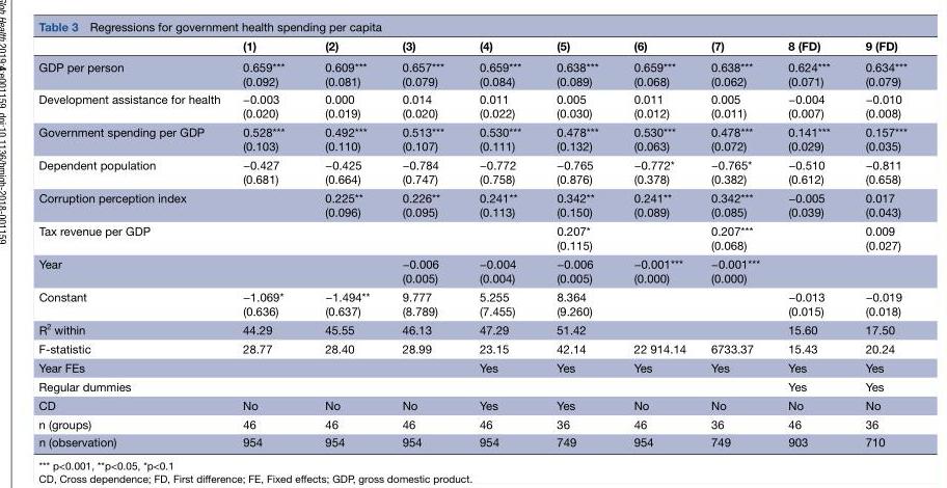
<table><thead><tr><td></td><td>(1)</td><td>(2)</td><td>(3)</td><td>(4)</td><td>(5)</td><td>(6)</td><td>(7)</td><td>8 (FD)</td><td>9 (FD)</td></tr></thead><tbody><tr><td>GDP per person</td><td>0.659*** (0.092)</td><td>0.609*** (0.081)</td><td>0.657*** (0.079)</td><td>0.659*** (0.084)</td><td>0.638*** (0.089)</td><td>0.659*** (0.068)</td><td>0.638*** (0.062)</td><td>0.624*** (0.071)</td><td>0.634*** (0.079)</td></tr><tr><td>Development assistance for health</td><td>−0.003 (0.020)</td><td>0.000 (0.019)</td><td>0.014 (0.020)</td><td>0.011 (0.022)</td><td>0.005 (0.030)</td><td>0.011 (0.012)</td><td>0.005 (0.011)</td><td>−0.004 (0.007)</td><td>−0.010 (0.008)</td></tr><tr><td>Government spending per GDP</td><td>0.528*** (0.103)</td><td>0.492*** (0.110)</td><td>0.513*** (0.107)</td><td>0.530*** (0.111)</td><td>0.478*** (0.132)</td><td>0.530*** (0.063)</td><td>0.478*** (0.072)</td><td>0.141*** (0.029)</td><td>0.157*** (0.035)</td></tr><tr><td>Dependent population</td><td>−0.427 (0.681)</td><td>−0.425 (0.664)</td><td>−0.784 (0.747)</td><td>−0.772 (0.758)</td><td>−0.765 (0.876)</td><td>−0.772* (0.378)</td><td>−0.765* (0.382)</td><td>−0.510 (0.612)</td><td>−0.811 (0.658)</td></tr><tr><td>Corruption perception index</td><td></td><td>0.225** (0.096)</td><td>0.226** (0.095)</td><td>0.241** (0.113)</td><td>0.342** (0.150)</td><td>0.241** (0.089)</td><td>0.342*** (0.085)</td><td>−0.005 (0.039)</td><td>0.017 (0.043)</td></tr><tr><td>Tax revenue per GDP</td><td></td><td></td><td></td><td></td><td>0.207* (0.115)</td><td></td><td>0.207*** (0.068)</td><td></td><td>0.009 (0.027)</td></tr><tr><td>Year</td><td></td><td></td><td>−0.006 (0.005)</td><td>−0.004 (0.004)</td><td>−0.006 (0.005)</td><td>−0.001*** (0.000)</td><td>−0.001*** (0.000)</td><td></td><td></td></tr><tr><td>Constant</td><td>−1.069* (0.636)</td><td>−1.494** (0.637)</td><td>9.777 (8.789)</td><td>5.255 (7.455)</td><td>8.364 (9.260)</td><td></td><td></td><td>−0.013 (0.015)</td><td>−0.019 (0.018)</td></tr><tr><td>R<sup>2</sup> within</td><td>44.29</td><td>45.55</td><td>46.13</td><td>47.29</td><td>51.42</td><td></td><td></td><td>15.60</td><td>17.50</td></tr><tr><td>F-statistic</td><td>28.77</td><td>28.40</td><td>28.99</td><td>23.15</td><td>42.14</td><td>22 914.14</td><td>6733.37</td><td>15.43</td><td>20.24</td></tr><tr><td>Year FEs</td><td></td><td></td><td></td><td>Yes</td><td>Yes</td><td>Yes</td><td>Yes</td><td>Yes</td><td>Yes</td></tr><tr><td>Regular dummies</td><td></td><td></td><td></td><td></td><td></td><td></td><td></td><td>Yes</td><td>Yes</td></tr><tr><td>CD</td><td>No</td><td>No</td><td>No</td><td>Yes</td><td>Yes</td><td>No</td><td>No</td><td>No</td><td>No</td></tr><tr><td>n (groups)</td><td>46</td><td>46</td><td>46</td><td>46</td><td>36</td><td>46</td><td>36</td><td>46</td><td>36</td></tr><tr><td>n (observation)</td><td>954</td><td>954</td><td>954</td><td>954</td><td>749</td><td>954</td><td>749</td><td>903</td><td>710</td></tr></tbody></table>